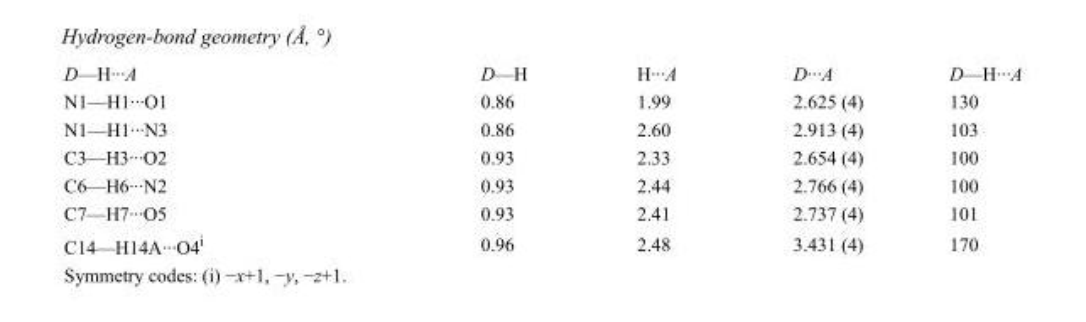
<table><tbody><tr><td>D—H···A</td><td>D—H</td><td>H···A</td><td>D···A</td><td>D—H···A</td></tr><tr><td>N1—H1···O1</td><td>0.86</td><td>1.99</td><td>2.625 (4)</td><td>130</td></tr><tr><td>N1—H1···N3</td><td>0.86</td><td>2.60</td><td>2.913 (4)</td><td>103</td></tr><tr><td>C3—H3···O2</td><td>0.93</td><td>2.33</td><td>2.654 (4)</td><td>100</td></tr><tr><td>C6—H6···N2</td><td>0.93</td><td>2.44</td><td>2.766 (4)</td><td>100</td></tr><tr><td>C7—H7···O5</td><td>0.93</td><td>2.41</td><td>2.737 (4)</td><td>101</td></tr><tr><td>C14—H14A···O4<sup>i</sup></td><td>0.96</td><td>2.48</td><td>3.431 (4)</td><td>170</td></tr></tbody></table>